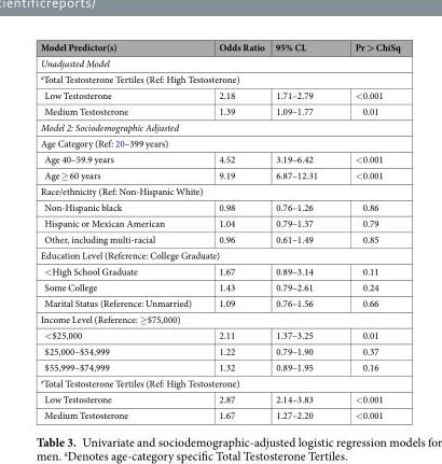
<table><thead><tr><td>Model Predictor(s)</td><td>Odds Ratio</td><td>95% CL</td><td>Pr &gt; ChiSq</td></tr></thead><tbody><tr><td colspan="4">Unadjusted Model</td></tr><tr><td colspan="4"><sup>a</sup>Total Testosterone Tertiles (Ref: High Testosterone)</td></tr><tr><td>Low Testosterone</td><td>2.18</td><td>1.71–2.79</td><td>&lt;0.001</td></tr><tr><td>Medium Testosterone</td><td>1.39</td><td>1.09–1.77</td><td>0.01</td></tr><tr><td colspan="4">Model 2: Sociodemographic Adjusted</td></tr><tr><td colspan="4">Age Category (Ref: 20–399 years)</td></tr><tr><td>Age 40–59.9 years</td><td>4.52</td><td>3.19–6.42</td><td>&lt;0.001</td></tr><tr><td>Age ≥ 60 years</td><td>9.19</td><td>6.87–12.31</td><td>&lt;0.001</td></tr><tr><td colspan="4">Race/ethnicity (Ref: Non-Hispanic White)</td></tr><tr><td>Non-Hispanic black</td><td>0.98</td><td>0.76–1.26</td><td>0.86</td></tr><tr><td>Hispanic or Mexican American</td><td>1.04</td><td>0.79–1.37</td><td>0.79</td></tr><tr><td>Other, including multi-racial</td><td>0.96</td><td>0.61–1.49</td><td>0.85</td></tr><tr><td colspan="4">Education Level (Reference: College Graduate)</td></tr><tr><td>&lt;High School Graduate</td><td>1.67</td><td>0.89–3.14</td><td>0.11</td></tr><tr><td>Some College</td><td>1.43</td><td>0.79–2.61</td><td>0.24</td></tr><tr><td>Marital Status (Reference: Unmarried)</td><td>1.09</td><td>0.76–1.56</td><td>0.66</td></tr><tr><td colspan="4">Income Level (Reference: ≥$75,000)</td></tr><tr><td>&lt;$25,000</td><td>2.11</td><td>1.37–3.25</td><td>0.01</td></tr><tr><td>$25,000–$54,999</td><td>1.22</td><td>0.79–1.90</td><td>0.37</td></tr><tr><td>$55,999–$74,999</td><td>1.32</td><td>0.89–1.95</td><td>0.16</td></tr><tr><td colspan="4"><sup>a</sup>Total Testosterone Tertiles (Ref: High Testosterone)</td></tr><tr><td>Low Testosterone</td><td>2.87</td><td>2.14–3.83</td><td>&lt;0.001</td></tr><tr><td>Medium Testosterone</td><td>1.67</td><td>1.27–2.20</td><td>&lt;0.001</td></tr></tbody></table>